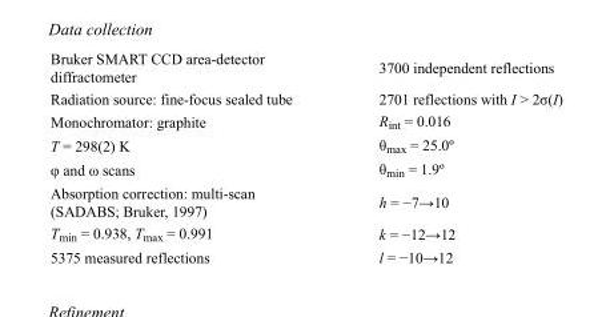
<table><tbody><tr><td>Bruker SMART CCD area-detector diffractometer</td><td>3700 independent reflections</td></tr><tr><td>Radiation source: fine-focus sealed tube</td><td>2701 reflections with I &gt; 2σ(I)</td></tr><tr><td>Monochromator: graphite</td><td>R<sub>int</sub> = 0.016</td></tr><tr><td>T = 298(2) K</td><td>θ<sub>max</sub> = 25.0º</td></tr><tr><td>φ and ω scans</td><td>θ<sub>min</sub> = 1.9º</td></tr><tr><td>Absorption correction: multi-scan (SADABS; Bruker, 1997)</td><td>h = −7→10</td></tr><tr><td>T<sub>min</sub> = 0.938, T<sub>max</sub> = 0.991</td><td>k = −12→12</td></tr><tr><td>5375 measured reflections</td><td>l = −10→12</td></tr></tbody></table>